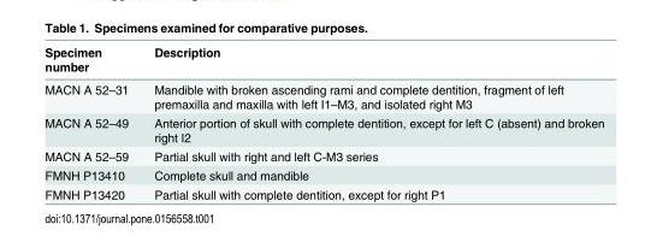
<table><thead><tr><td>Specimen number</td><td>Description</td></tr></thead><tbody><tr><td>MACN A 52–31</td><td>Mandible with broken ascending rami and complete dentition, fragment of left premaxilla and maxilla with left I1–M3, and isolated right M3</td></tr><tr><td>MACN A 52–49</td><td>Anterior portion of skull with complete dentition, except for left C (absent) and broken right I2</td></tr><tr><td>MACN A 52–59</td><td>Partial skull with right and left C-M3 series</td></tr><tr><td>FMNH P13410</td><td>Complete skull and mandible</td></tr><tr><td>FMNH P13420</td><td>Partial skull with complete dentition, except for right P1</td></tr></tbody></table>